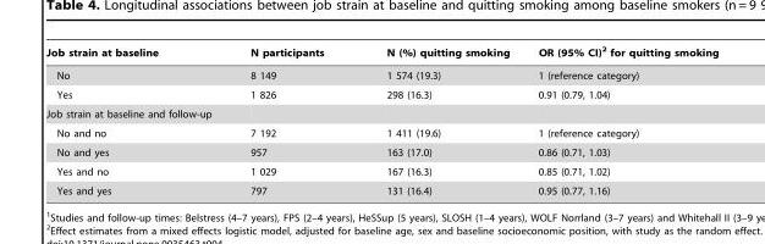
<table><thead><tr><td>Job strain at baseline</td><td>N participants</td><td>N (%) quitting smoking</td><td>OR (95% CI)<sup>2</sup> for quitting smoking</td></tr></thead><tbody><tr><td>No</td><td>8 149</td><td>1 574 (19.3)</td><td>1 (reference category)</td></tr><tr><td>Yes</td><td>1 826</td><td>298 (16.3)</td><td>0.91 (0.79, 1.04)</td></tr><tr><td colspan="4">Job strain at baseline and follow-up</td></tr><tr><td>No and no</td><td>7 192</td><td>1 411 (19.6)</td><td>1 (reference category)</td></tr><tr><td>No and yes</td><td>957</td><td>163 (17.0)</td><td>0.86 (0.71, 1.03)</td></tr><tr><td>Yes and no</td><td>1 029</td><td>167 (16.3)</td><td>0.85 (0.71, 1.02)</td></tr><tr><td>Yes and yes</td><td>797</td><td>131 (16.4)</td><td>0.95 (0.77, 1.16)</td></tr></tbody></table>